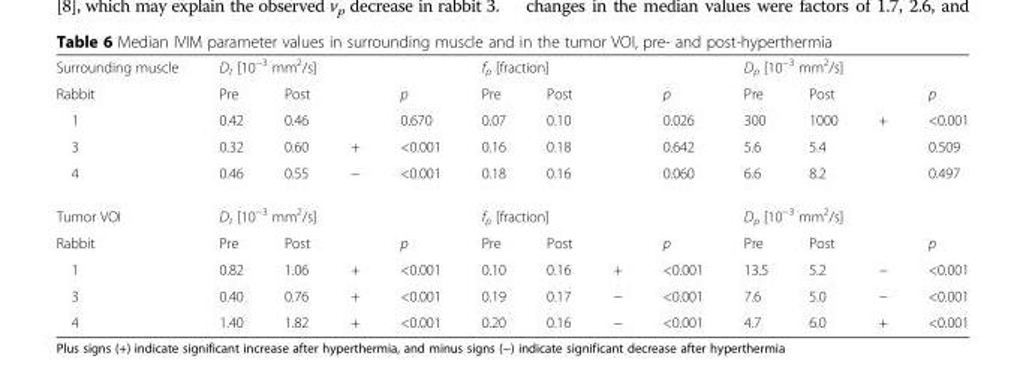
<table><tbody><tr><td>Surrounding muscle</td><td colspan="4">D<sub>t</sub> [10<sup>−3</sup> mm<sup>2</sup>/s]</td><td colspan="4">f<sub>p</sub> [fraction]</td><td colspan="4">D<sub>p</sub> [10<sup>−3</sup> mm<sup>2</sup>/s]</td></tr><tr><td>Rabbit</td><td>Pre</td><td>Post</td><td></td><td>p</td><td>Pre</td><td>Post</td><td></td><td>p</td><td>Pre</td><td>Post</td><td></td><td>p</td></tr><tr><td>1</td><td>0.42</td><td>0.46</td><td></td><td>0.670</td><td>0.07</td><td>0.10</td><td></td><td>0.026</td><td>300</td><td>1000</td><td>+</td><td>&lt;0.001</td></tr><tr><td>3</td><td>0.32</td><td>0.60</td><td>+</td><td>&lt;0.001</td><td>0.16</td><td>0.18</td><td></td><td>0.642</td><td>5.6</td><td>5.4</td><td></td><td>0.509</td></tr><tr><td>4</td><td>0.46</td><td>0.55</td><td>−</td><td>&lt;0.001</td><td>0.18</td><td>0.16</td><td></td><td>0.060</td><td>6.6</td><td>8.2</td><td></td><td>0.497</td></tr><tr><td>Tumor VOI</td><td colspan="4">D<sub>t</sub> [10<sup>−3</sup> mm<sup>2</sup>/s]</td><td colspan="4">f<sub>p</sub> [fraction]</td><td colspan="4">D<sub>p</sub> [10<sup>−3</sup> mm<sup>2</sup>/s]</td></tr><tr><td>Rabbit</td><td>Pre</td><td>Post</td><td></td><td>p</td><td>Pre</td><td>Post</td><td></td><td>p</td><td>Pre</td><td>Post</td><td></td><td>p</td></tr><tr><td>1</td><td>0.82</td><td>1.06</td><td>+</td><td>&lt;0.001</td><td>0.10</td><td>0.16</td><td>+</td><td>&lt;0.001</td><td>13.5</td><td>5.2</td><td>−</td><td>&lt;0.001</td></tr><tr><td>3</td><td>0.40</td><td>0.76</td><td>+</td><td>&lt;0.001</td><td>0.19</td><td>0.17</td><td>−</td><td>&lt;0.001</td><td>7.6</td><td>5.0</td><td>−</td><td>&lt;0.001</td></tr><tr><td>4</td><td>1.40</td><td>1.82</td><td>+</td><td>&lt;0.001</td><td>0.20</td><td>0.16</td><td>−</td><td>&lt;0.001</td><td>4.7</td><td>6.0</td><td>+</td><td>&lt;0.001</td></tr></tbody></table>